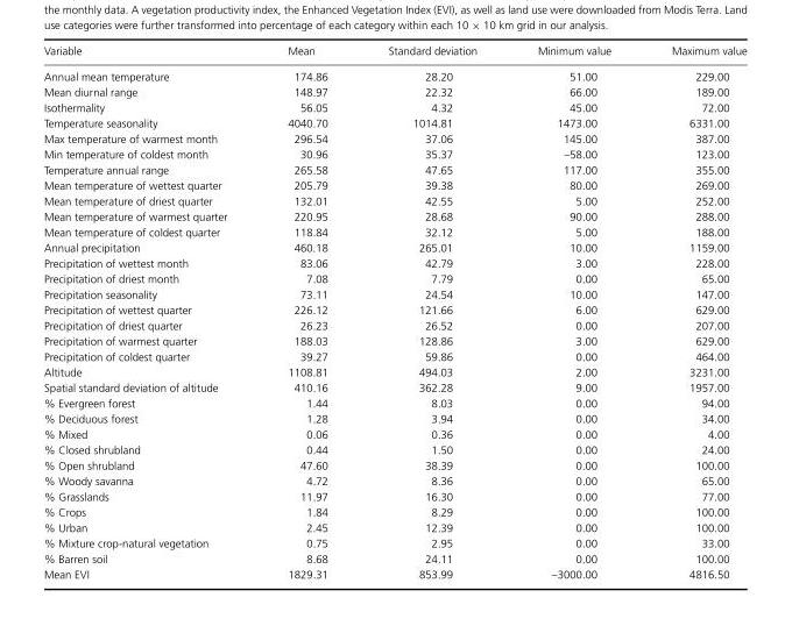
<table><thead><tr><td>Variable</td><td>Mean</td><td>Standard deviation</td><td>Minimum value</td><td>Maximum value</td></tr></thead><tbody><tr><td>Annual mean temperature</td><td>174.86</td><td>28.20</td><td>51.00</td><td>229.00</td></tr><tr><td>Mean diurnal range</td><td>148.97</td><td>22.32</td><td>66.00</td><td>189.00</td></tr><tr><td>Isothermality</td><td>56.05</td><td>4.32</td><td>45.00</td><td>72.00</td></tr><tr><td>Temperature seasonality</td><td>4040.70</td><td>1014.81</td><td>1473.00</td><td>6331.00</td></tr><tr><td>Max temperature of warmest month</td><td>296.54</td><td>37.06</td><td>145.00</td><td>387.00</td></tr><tr><td>Min temperature of coldest month</td><td>30.96</td><td>35.37</td><td>–58.00</td><td>123.00</td></tr><tr><td>Temperature annual range</td><td>265.58</td><td>47.65</td><td>117.00</td><td>355.00</td></tr><tr><td>Mean temperature of wettest quarter</td><td>205.79</td><td>39.38</td><td>80.00</td><td>269.00</td></tr><tr><td>Mean temperature of driest quarter</td><td>132.01</td><td>42.55</td><td>5.00</td><td>252.00</td></tr><tr><td>Mean temperature of warmest quarter</td><td>220.95</td><td>28.68</td><td>90.00</td><td>288.00</td></tr><tr><td>Mean temperature of coldest quarter</td><td>118.84</td><td>32.12</td><td>5.00</td><td>188.00</td></tr><tr><td>Annual precipitation</td><td>460.18</td><td>265.01</td><td>10.00</td><td>1159.00</td></tr><tr><td>Precipitation of wettest month</td><td>83.06</td><td>42.79</td><td>3.00</td><td>228.00</td></tr><tr><td>Precipitation of driest month</td><td>7.08</td><td>7.79</td><td>0.00</td><td>65.00</td></tr><tr><td>Precipitation seasonality</td><td>73.11</td><td>24.54</td><td>10.00</td><td>147.00</td></tr><tr><td>Precipitation of wettest quarter</td><td>226.12</td><td>121.66</td><td>6.00</td><td>629.00</td></tr><tr><td>Precipitation of driest quarter</td><td>26.23</td><td>26.52</td><td>0.00</td><td>207.00</td></tr><tr><td>Precipitation of warmest quarter</td><td>188.03</td><td>128.86</td><td>3.00</td><td>629.00</td></tr><tr><td>Precipitation of coldest quarter</td><td>39.27</td><td>59.86</td><td>0.00</td><td>464.00</td></tr><tr><td>Altitude</td><td>1108.81</td><td>494.03</td><td>2.00</td><td>3231.00</td></tr><tr><td>Spatial standard deviation of altitude</td><td>410.16</td><td>362.28</td><td>9.00</td><td>1957.00</td></tr><tr><td>% Evergreen forest</td><td>1.44</td><td>8.03</td><td>0.00</td><td>94.00</td></tr><tr><td>% Deciduous forest</td><td>1.28</td><td>3.94</td><td>0.00</td><td>34.00</td></tr><tr><td>% Mixed</td><td>0.06</td><td>0.36</td><td>0.00</td><td>4.00</td></tr><tr><td>% Closed shrubland</td><td>0.44</td><td>1.50</td><td>0.00</td><td>24.00</td></tr><tr><td>% Open shrubland</td><td>47.60</td><td>38.39</td><td>0.00</td><td>100.00</td></tr><tr><td>% Woody savanna</td><td>4.72</td><td>8.36</td><td>0.00</td><td>65.00</td></tr><tr><td>% Grasslands</td><td>11.97</td><td>16.30</td><td>0.00</td><td>77.00</td></tr><tr><td>% Crops</td><td>1.84</td><td>8.29</td><td>0.00</td><td>100.00</td></tr><tr><td>% Urban</td><td>2.45</td><td>12.39</td><td>0.00</td><td>100.00</td></tr><tr><td>% Mixture crop-natural vegetation</td><td>0.75</td><td>2.95</td><td>0.00</td><td>33.00</td></tr><tr><td>% Barren soil</td><td>8.68</td><td>24.11</td><td>0.00</td><td>100.00</td></tr><tr><td>Mean EVI</td><td>1829.31</td><td>853.99</td><td>–3000.00</td><td>4816.50</td></tr></tbody></table>